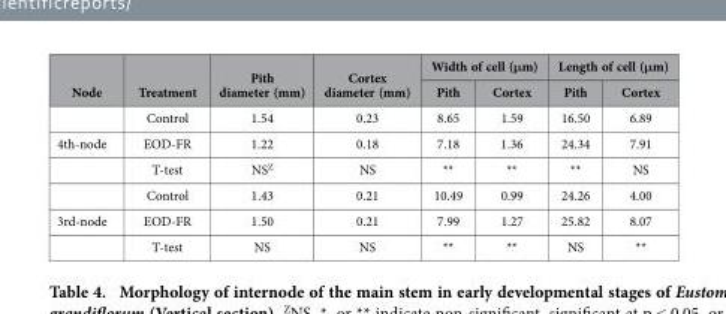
<table><thead><tr><td rowspan="2">Node</td><td rowspan="2">Treatment</td><td rowspan="2">Pith diameter (mm)</td><td rowspan="2">Cortex diameter (mm)</td><td colspan="2">Width of cell (μm)</td><td colspan="2">Length of cell (μm)</td></tr><tr><td>Pith</td><td>Cortex</td><td>Pith</td><td>Cortex</td></tr></thead><tbody><tr><td></td><td>Control</td><td>1.54</td><td>0.23</td><td>8.65</td><td>1.59</td><td>16.50</td><td>6.89</td></tr><tr><td rowspan="3">4th-node</td><td>EOD-FR</td><td>1.22</td><td>0.18</td><td>7.18</td><td>1.36</td><td>24.34</td><td>7.91</td></tr><tr><td>T-test</td><td>NS<sup>Z</sup></td><td>NS</td><td>**</td><td>**</td><td>**</td><td>NS</td></tr><tr><td>Control</td><td>1.43</td><td>0.21</td><td>10.49</td><td>0.99</td><td>24.26</td><td>4.00</td></tr><tr><td rowspan="2">3rd-node</td><td>EOD-FR</td><td>1.50</td><td>0.21</td><td>7.99</td><td>1.27</td><td>25.82</td><td>8.07</td></tr><tr><td>T-test</td><td>NS</td><td>NS</td><td>**</td><td>**</td><td>NS</td><td>**</td></tr></tbody></table>